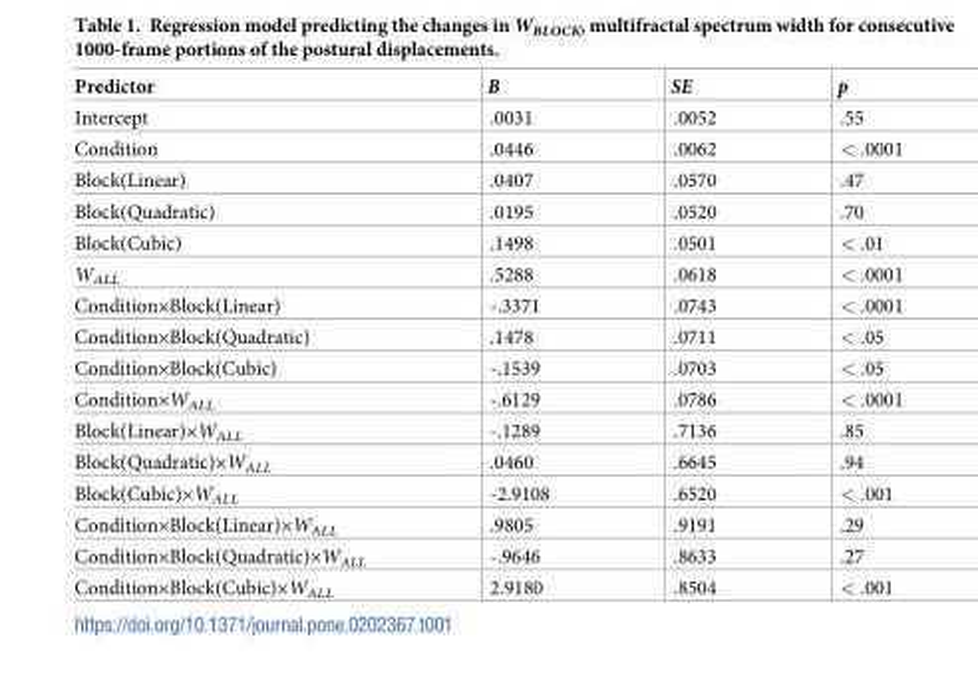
<table><thead><tr><td>Predictor</td><td>B</td><td>SE</td><td>p</td></tr></thead><tbody><tr><td>Intercept</td><td>.0031</td><td>.0052</td><td>.55</td></tr><tr><td>Condition</td><td>.0446</td><td>.0062</td><td>&lt; .0001</td></tr><tr><td>Block(Linear)</td><td>.0407</td><td>.0570</td><td>.47</td></tr><tr><td>Block(Quadratic)</td><td>.0195</td><td>.0520</td><td>.70</td></tr><tr><td>Block(Cubic)</td><td>.1498</td><td>.0501</td><td>&lt; .01</td></tr><tr><td>W<sub>ALL</sub></td><td>.5288</td><td>.0618</td><td>&lt; .0001</td></tr><tr><td>Condition×Block(Linear)</td><td>-.3371</td><td>.0743</td><td>&lt; .0001</td></tr><tr><td>Condition×Block(Quadratic)</td><td>.1478</td><td>.0711</td><td>&lt; .05</td></tr><tr><td>Condition×Block(Cubic)</td><td>-.1539</td><td>.0703</td><td>&lt; .05</td></tr><tr><td>Condition×W<sub>ALL</sub></td><td>-.6129</td><td>.0786</td><td>&lt; .0001</td></tr><tr><td>Block(Linear)×W<sub>ALL</sub></td><td>-.1289</td><td>.7136</td><td>.85</td></tr><tr><td>Block(Quadratic)×W<sub>ALL</sub></td><td>.0460</td><td>.6645</td><td>.94</td></tr><tr><td>Block(Cubic)×W<sub>ALL</sub></td><td>-2.9108</td><td>.6520</td><td>&lt; .001</td></tr><tr><td>Condition×Block(Linear)×W<sub>ALL</sub></td><td>.9805</td><td>.9191</td><td>.29</td></tr><tr><td>Condition×Block(Quadratic)×W<sub>ALL</sub></td><td>-.9646</td><td>.8633</td><td>.27</td></tr><tr><td>Condition×Block(Cubic)×W<sub>ALL</sub></td><td>2.9180</td><td>.8504</td><td>&lt; .001</td></tr></tbody></table>